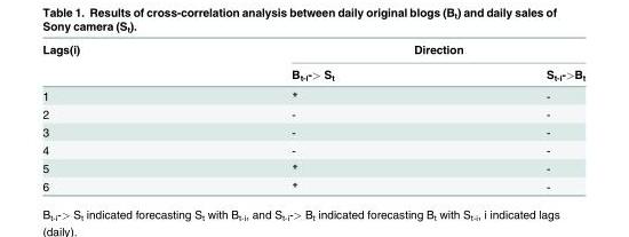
<table><thead><tr><td rowspan="2">Lags(i)</td><td colspan="2">Direction</td></tr><tr><td>B<sub>t-i</sub>-&gt; S<sub>t</sub></td><td>S<sub>t-i</sub>-&gt;B<sub>t</sub></td></tr></thead><tbody><tr><td>1</td><td>*</td><td>-</td></tr><tr><td>2</td><td>-</td><td>-</td></tr><tr><td>3</td><td>-</td><td>-</td></tr><tr><td>4</td><td>-</td><td>-</td></tr><tr><td>5</td><td>*</td><td>-</td></tr><tr><td>6</td><td>*</td><td>-</td></tr></tbody></table>